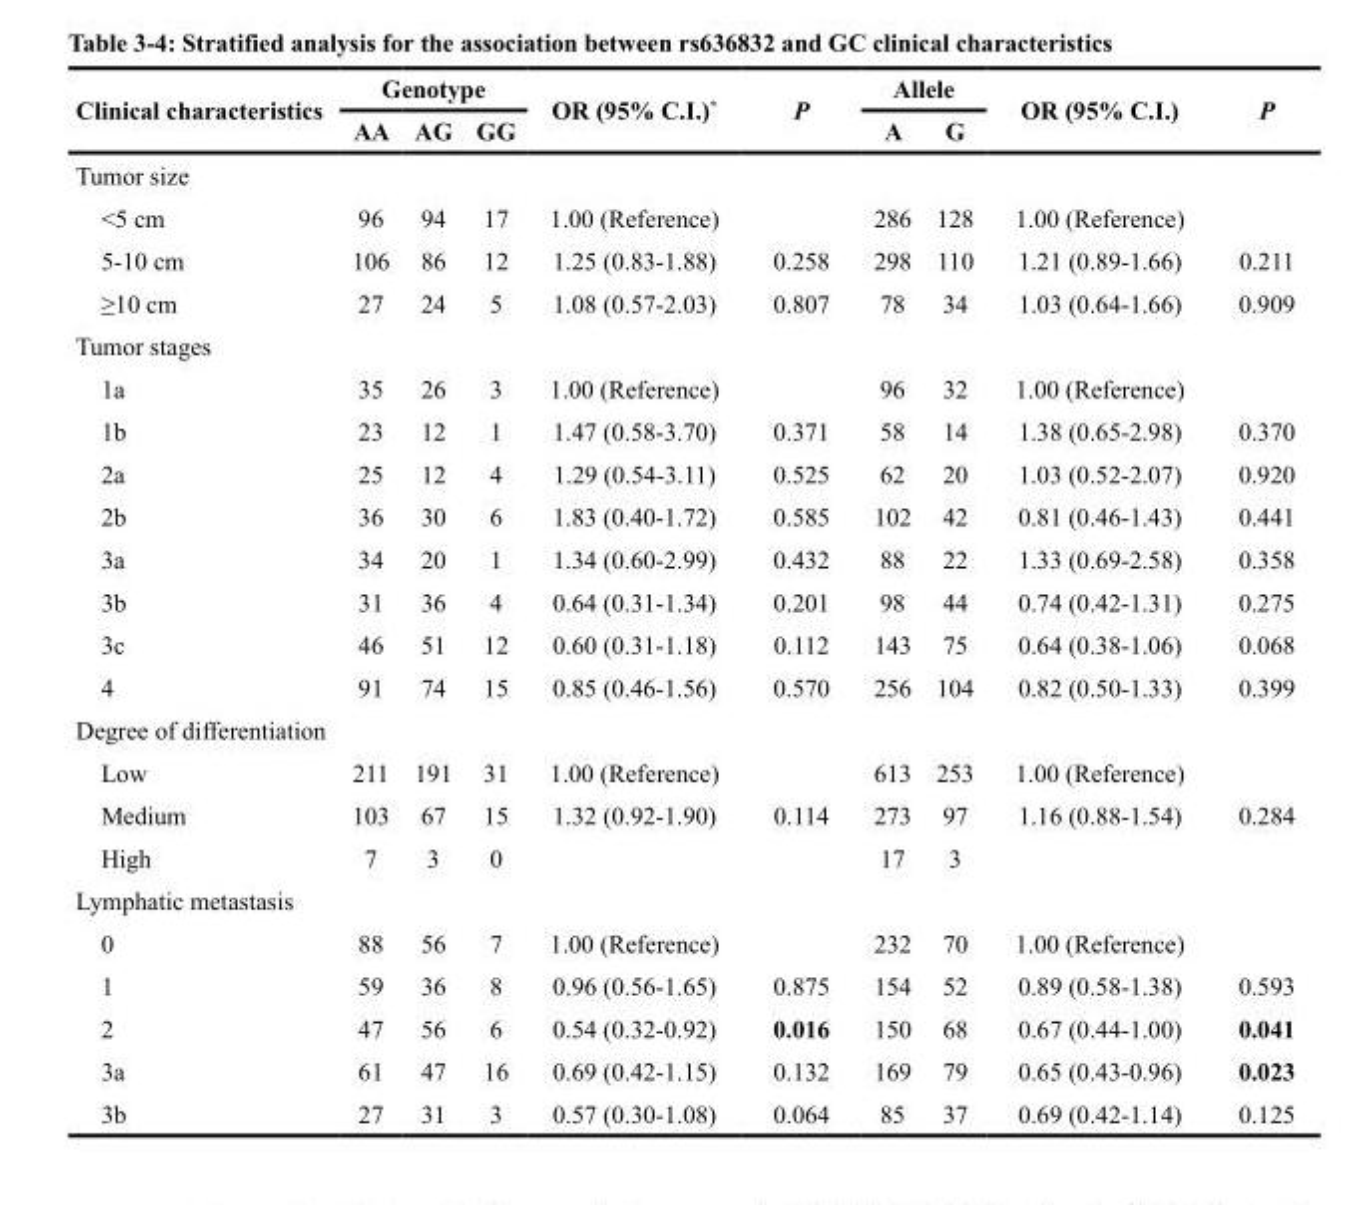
<table><thead><tr><td rowspan="2">Clinical characteristics</td><td colspan="3">Genotype</td><td rowspan="2">OR (95% C.I.)*</td><td rowspan="2">P</td><td colspan="2">Allele</td><td rowspan="2">OR (95% C.I.)</td><td rowspan="2">P</td></tr><tr><td>AA</td><td>AG</td><td>GG</td><td>A</td><td>G</td></tr></thead><tbody><tr><td colspan="10">Tumor size</td></tr><tr><td>&lt;5 cm</td><td>96</td><td>94</td><td>17</td><td>1.00 (Reference)</td><td></td><td>286</td><td>128</td><td>1.00 (Reference)</td><td></td></tr><tr><td>5-10 cm</td><td>106</td><td>86</td><td>12</td><td>1.25 (0.83-1.88)</td><td>0.258</td><td>298</td><td>110</td><td>1.21 (0.89-1.66)</td><td>0.211</td></tr><tr><td>≥10 cm</td><td>27</td><td>24</td><td>5</td><td>1.08 (0.57-2.03)</td><td>0.807</td><td>78</td><td>34</td><td>1.03 (0.64-1.66)</td><td>0.909</td></tr><tr><td colspan="10">Tumor stages</td></tr><tr><td>1a</td><td>35</td><td>26</td><td>3</td><td>1.00 (Reference)</td><td></td><td>96</td><td>32</td><td>1.00 (Reference)</td><td></td></tr><tr><td>1b</td><td>23</td><td>12</td><td>1</td><td>1.47 (0.58-3.70)</td><td>0.371</td><td>58</td><td>14</td><td>1.38 (0.65-2.98)</td><td>0.370</td></tr><tr><td>2a</td><td>25</td><td>12</td><td>4</td><td>1.29 (0.54-3.11)</td><td>0.525</td><td>62</td><td>20</td><td>1.03 (0.52-2.07)</td><td>0.920</td></tr><tr><td>2b</td><td>36</td><td>30</td><td>6</td><td>1.83 (0.40-1.72)</td><td>0.585</td><td>102</td><td>42</td><td>0.81 (0.46-1.43)</td><td>0.441</td></tr><tr><td>3a</td><td>34</td><td>20</td><td>1</td><td>1.34 (0.60-2.99)</td><td>0.432</td><td>88</td><td>22</td><td>1.33 (0.69-2.58)</td><td>0.358</td></tr><tr><td>3b</td><td>31</td><td>36</td><td>4</td><td>0.64 (0.31-1.34)</td><td>0.201</td><td>98</td><td>44</td><td>0.74 (0.42-1.31)</td><td>0.275</td></tr><tr><td>3c</td><td>46</td><td>51</td><td>12</td><td>0.60 (0.31-1.18)</td><td>0.112</td><td>143</td><td>75</td><td>0.64 (0.38-1.06)</td><td>0.068</td></tr><tr><td>4</td><td>91</td><td>74</td><td>15</td><td>0.85 (0.46-1.56)</td><td>0.570</td><td>256</td><td>104</td><td>0.82 (0.50-1.33)</td><td>0.399</td></tr><tr><td colspan="10">Degree of differentiation</td></tr><tr><td>Low</td><td>211</td><td>191</td><td>31</td><td>1.00 (Reference)</td><td></td><td>613</td><td>253</td><td>1.00 (Reference)</td><td></td></tr><tr><td>Medium</td><td>103</td><td>67</td><td>15</td><td>1.32 (0.92-1.90)</td><td>0.114</td><td>273</td><td>97</td><td>1.16 (0.88-1.54)</td><td>0.284</td></tr><tr><td>High</td><td>7</td><td>3</td><td>0</td><td></td><td></td><td>17</td><td>3</td><td></td><td></td></tr><tr><td colspan="10">Lymphatic metastasis</td></tr><tr><td>0</td><td>88</td><td>56</td><td>7</td><td>1.00 (Reference)</td><td></td><td>232</td><td>70</td><td>1.00 (Reference)</td><td></td></tr><tr><td>1</td><td>59</td><td>36</td><td>8</td><td>0.96 (0.56-1.65)</td><td>0.875</td><td>154</td><td>52</td><td>0.89 (0.58-1.38)</td><td>0.593</td></tr><tr><td>2</td><td>47</td><td>56</td><td>6</td><td>0.54 (0.32-0.92)</td><td>0.016</td><td>150</td><td>68</td><td>0.67 (0.44-1.00)</td><td>0.041</td></tr><tr><td>3a</td><td>61</td><td>47</td><td>16</td><td>0.69 (0.42-1.15)</td><td>0.132</td><td>169</td><td>79</td><td>0.65 (0.43-0.96)</td><td>0.023</td></tr><tr><td>3b</td><td>27</td><td>31</td><td>3</td><td>0.57 (0.30-1.08)</td><td>0.064</td><td>85</td><td>37</td><td>0.69 (0.42-1.14)</td><td>0.125</td></tr></tbody></table>